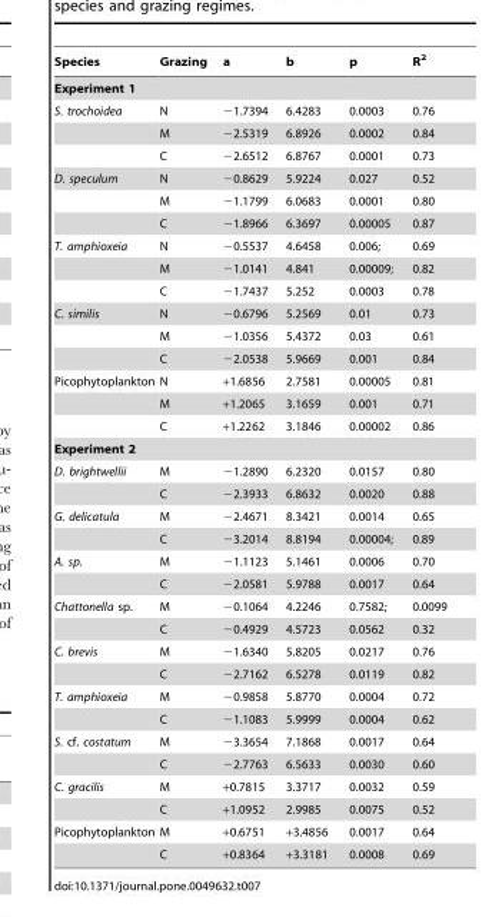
<table><thead><tr><td>Species</td><td>Grazing</td><td>a</td><td>b</td><td>p</td><td>R<sup>2</sup></td></tr></thead><tbody><tr><td colspan="6">Experiment 1</td></tr><tr><td rowspan="3">S. trochoidea</td><td>N</td><td>−1.7394</td><td>6.4283</td><td>0.0003</td><td>0.76</td></tr><tr><td>M</td><td>−2.5319</td><td>6.8926</td><td>0.0002</td><td>0.84</td></tr><tr><td>C</td><td>−2.6512</td><td>6.8767</td><td>0.0001</td><td>0.73</td></tr><tr><td rowspan="3">D. speculum</td><td>N</td><td>−0.8629</td><td>5.9224</td><td>0.027</td><td>0.52</td></tr><tr><td>M</td><td>−1.1799</td><td>6.0683</td><td>0.0001</td><td>0.80</td></tr><tr><td>C</td><td>−1.8966</td><td>6.3697</td><td>0.00005</td><td>0.87</td></tr><tr><td rowspan="3">T. amphioxeia</td><td>N</td><td>−0.5537</td><td>4.6458</td><td>0.006;</td><td>0.69</td></tr><tr><td>M</td><td>−1.0141</td><td>4.841</td><td>0.00009;</td><td>0.82</td></tr><tr><td>C</td><td>−1.7437</td><td>5.252</td><td>0.0003</td><td>0.78</td></tr><tr><td rowspan="3">C. similis</td><td>N</td><td>−0.6796</td><td>5.2569</td><td>0.01</td><td>0.73</td></tr><tr><td>M</td><td>−1.0356</td><td>5.4372</td><td>0.03</td><td>0.61</td></tr><tr><td>C</td><td>−2.0538</td><td>5.9669</td><td>0.001</td><td>0.84</td></tr><tr><td rowspan="3">Picophytoplankton</td><td>N</td><td>+1.6856</td><td>2.7581</td><td>0.00005</td><td>0.81</td></tr><tr><td>M</td><td>+1.2065</td><td>3.1659</td><td>0.001</td><td>0.71</td></tr><tr><td>C</td><td>+1.2262</td><td>3.1846</td><td>0.00002</td><td>0.86</td></tr><tr><td colspan="6">Experiment 2</td></tr><tr><td rowspan="2">D. brightwellii</td><td>M</td><td>−1.2890</td><td>6.2320</td><td>0.0157</td><td>0.80</td></tr><tr><td>C</td><td>−2.3933</td><td>6.8632</td><td>0.0020</td><td>0.88</td></tr><tr><td rowspan="2">G. delicatula</td><td>M</td><td>−2.4671</td><td>8.3421</td><td>0.0014</td><td>0.65</td></tr><tr><td>C</td><td>−3.2014</td><td>8.8194</td><td>0.00004;</td><td>0.89</td></tr><tr><td rowspan="2">A. sp.</td><td>M</td><td>−1.1123</td><td>5.1461</td><td>0.0006</td><td>0.70</td></tr><tr><td>C</td><td>−2.0581</td><td>5.9788</td><td>0.0017</td><td>0.64</td></tr><tr><td rowspan="2">Chattonella sp.</td><td>M</td><td>−0.1064</td><td>4.2246</td><td>0.7582;</td><td>0.0099</td></tr><tr><td>C</td><td>−0.4929</td><td>4.5723</td><td>0.0562</td><td>0.32</td></tr><tr><td rowspan="2">C. brevis</td><td>M</td><td>−1.6340</td><td>5.8205</td><td>0.0217</td><td>0.76</td></tr><tr><td>C</td><td>−2.7162</td><td>6.5278</td><td>0.0119</td><td>0.82</td></tr><tr><td rowspan="2">T. amphioxeia</td><td>M</td><td>−0.9858</td><td>5.8770</td><td>0.0004</td><td>0.72</td></tr><tr><td>C</td><td>−1.1083</td><td>5.9999</td><td>0.0004</td><td>0.62</td></tr><tr><td rowspan="2">S. cf. costatum</td><td>M</td><td>−3.3654</td><td>7.1868</td><td>0.0017</td><td>0.64</td></tr><tr><td>C</td><td>−2.7763</td><td>6.5633</td><td>0.0030</td><td>0.60</td></tr><tr><td rowspan="2">C. gracilis</td><td>M</td><td>+0.7815</td><td>3.3717</td><td>0.0032</td><td>0.59</td></tr><tr><td>C</td><td>+1.0952</td><td>2.9985</td><td>0.0075</td><td>0.52</td></tr><tr><td rowspan="2">Picophytoplankton</td><td>M</td><td>+0.6751</td><td>+3.4856</td><td>0.0017</td><td>0.64</td></tr><tr><td>C</td><td>+0.8364</td><td>+3.3181</td><td>0.0008</td><td>0.69</td></tr></tbody></table>